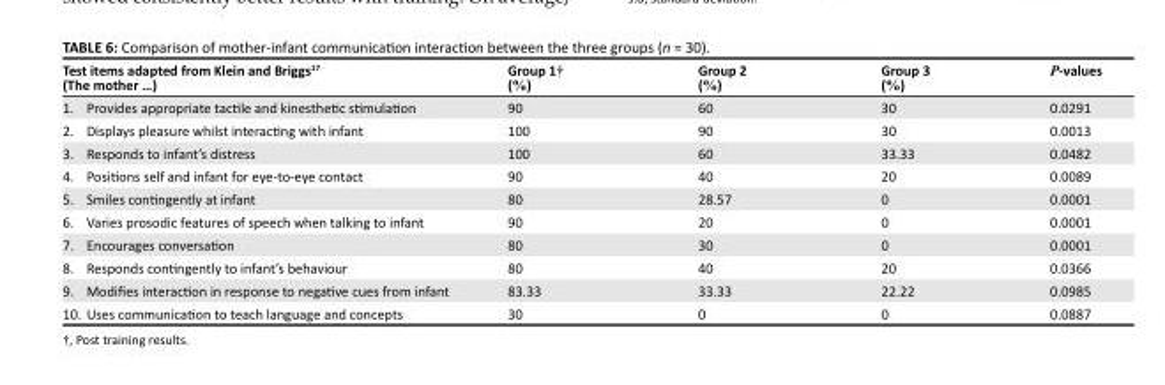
<table><thead><tr><td>Test items adapted from Klein and Briggs<sup>17</sup> (The mother …)</td><td>Group 1† (%)</td><td>Group 2 (%)</td><td>Group 3 (%)</td><td>P-values</td></tr></thead><tbody><tr><td>1. Provides appropriate tactile and kinesthetic stimulation</td><td>90</td><td>60</td><td>30</td><td>0.0291</td></tr><tr><td>2. Displays pleasure whilst interacting with infant</td><td>100</td><td>90</td><td>30</td><td>0.0013</td></tr><tr><td>3. Responds to infant’s distress</td><td>100</td><td>60</td><td>33.33</td><td>0.0482</td></tr><tr><td>4. Positions self and infant for eye-to-eye contact</td><td>90</td><td>40</td><td>20</td><td>0.0089</td></tr><tr><td>5. Smiles contingently at infant</td><td>80</td><td>28.57</td><td>0</td><td>0.0001</td></tr><tr><td>6. Varies prosodic features of speech when talking to infant</td><td>90</td><td>20</td><td>0</td><td>0.0001</td></tr><tr><td>7. Encourages conversation</td><td>80</td><td>30</td><td>0</td><td>0.0001</td></tr><tr><td>8. Responds contingently to infant’s behaviour</td><td>80</td><td>40</td><td>20</td><td>0.0366</td></tr><tr><td>9. Modifies interaction in response to negative cues from infant</td><td>83.33</td><td>33.33</td><td>22.22</td><td>0.0985</td></tr><tr><td>10. Uses communication to teach language and concepts</td><td>30</td><td>0</td><td>0</td><td>0.0887</td></tr></tbody></table>